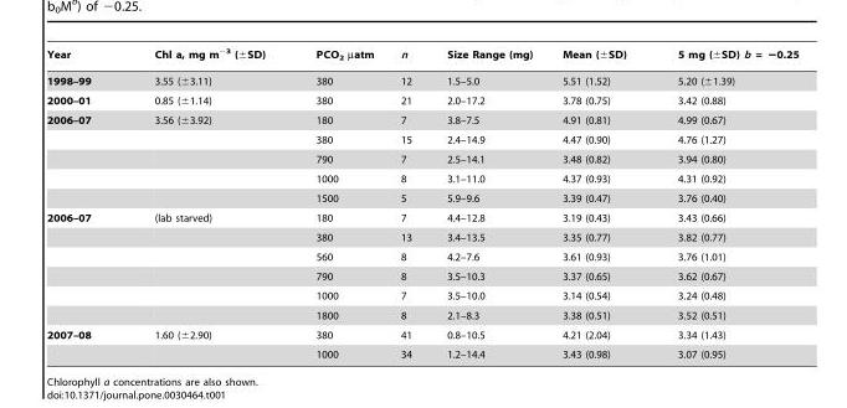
<table><thead><tr><td>Year</td><td>Chl a, mg m<sup>−3</sup> (±SD)</td><td>PCO<sub>2</sub> µatm</td><td>n</td><td>Size Range (mg)</td><td>Mean (±SD)</td><td>5 mg (±SD) b = −0.25</td></tr></thead><tbody><tr><td>1998–99</td><td>3.55 (±3.11)</td><td>380</td><td>12</td><td>1.5–5.0</td><td>5.51 (1.52)</td><td>5.20 (±1.39)</td></tr><tr><td>2000–01</td><td>0.85 (±1.14)</td><td>380</td><td>21</td><td>2.0–17.2</td><td>3.78 (0.75)</td><td>3.42 (0.88)</td></tr><tr><td rowspan="5">2006–07</td><td>3.56 (±3.92)</td><td>180</td><td>7</td><td>3.8–7.5</td><td>4.91 (0.81)</td><td>4.99 (0.67)</td></tr><tr><td></td><td>380</td><td>15</td><td>2.4–14.9</td><td>4.47 (0.90)</td><td>4.76 (1.27)</td></tr><tr><td></td><td>790</td><td>7</td><td>2.5–14.1</td><td>3.48 (0.82)</td><td>3.94 (0.80)</td></tr><tr><td></td><td>1000</td><td>8</td><td>3.1–11.0</td><td>4.37 (0.93)</td><td>4.31 (0.92)</td></tr><tr><td></td><td>1500</td><td>5</td><td>5.9–9.6</td><td>3.39 (0.47)</td><td>3.76 (0.40)</td></tr><tr><td rowspan="6">2006–07</td><td>(lab starved)</td><td>180</td><td>7</td><td>4.4–12.8</td><td>3.19 (0.43)</td><td>3.43 (0.66)</td></tr><tr><td></td><td>380</td><td>13</td><td>3.4–13.5</td><td>3.35 (0.77)</td><td>3.82 (0.77)</td></tr><tr><td></td><td>560</td><td>8</td><td>4.2–7.6</td><td>3.61 (0.93)</td><td>3.76 (1.01)</td></tr><tr><td></td><td>790</td><td>8</td><td>3.5–10.3</td><td>3.37 (0.65)</td><td>3.62 (0.67)</td></tr><tr><td></td><td>1000</td><td>7</td><td>3.5–10.0</td><td>3.14 (0.54)</td><td>3.24 (0.48)</td></tr><tr><td></td><td>1800</td><td>8</td><td>2.1–8.3</td><td>3.38 (0.51)</td><td>3.52 (0.51)</td></tr><tr><td rowspan="2">2007–08</td><td>1.60 (±2.90)</td><td>380</td><td>41</td><td>0.8–10.5</td><td>4.21 (2.04)</td><td>3.34 (1.43)</td></tr><tr><td></td><td>1000</td><td>34</td><td>1.2–14.4</td><td>3.43 (0.98)</td><td>3.07 (0.95)</td></tr></tbody></table>